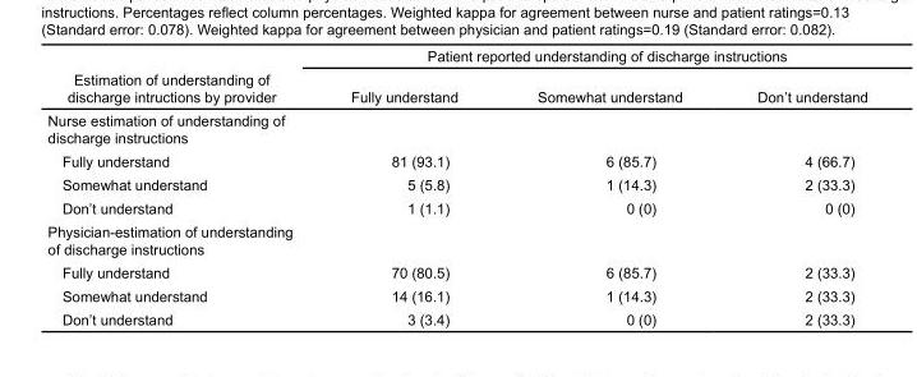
<table><thead><tr><td rowspan="2">Estimation of understanding of discharge intructions by provider</td><td colspan="3">Patient reported understanding of discharge instructions</td></tr><tr><td>Fully understand</td><td>Somewhat understand</td><td>Don’t understand</td></tr></thead><tbody><tr><td colspan="4">Nurse estimation of understanding of discharge instructions</td></tr><tr><td>Fully understand</td><td>81 (93.1)</td><td>6 (85.7)</td><td>4 (66.7)</td></tr><tr><td>Somewhat understand</td><td>5 (5.8)</td><td>1 (14.3)</td><td>2 (33.3)</td></tr><tr><td>Don’t understand</td><td>1 (1.1)</td><td>0 (0)</td><td>0 (0)</td></tr><tr><td colspan="4">Physician-estimation of understanding of discharge instructions</td></tr><tr><td>Fully understand</td><td>70 (80.5)</td><td>6 (85.7)</td><td>2 (33.3)</td></tr><tr><td>Somewhat understand</td><td>14 (16.1)</td><td>1 (14.3)</td><td>2 (33.3)</td></tr><tr><td>Don’t understand</td><td>3 (3.4)</td><td>0 (0)</td><td>2 (33.3)</td></tr></tbody></table>